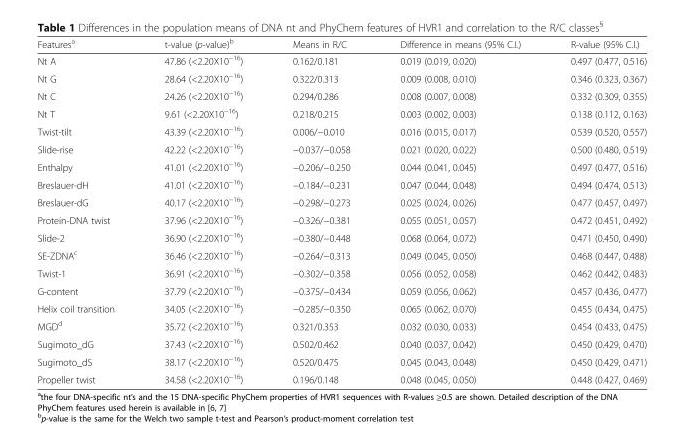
<table><thead><tr><td>Features<sup>a</sup></td><td>t-value (p-value)<sup>b</sup></td><td>Means in R/C</td><td>Difference in means (95% C.I.)</td><td>R-value (95% C.I.)</td></tr></thead><tbody><tr><td>Nt A</td><td>47.86 (&lt;2.20X10<sup>−16</sup>)</td><td>0.162/0.181</td><td>0.019 (0.019, 0.020)</td><td>0.497 (0.477, 0.516)</td></tr><tr><td>Nt G</td><td>28.64 (&lt;2.20X10<sup>−16</sup>)</td><td>0.322/0.313</td><td>0.009 (0.008, 0.010)</td><td>0.346 (0.323, 0.367)</td></tr><tr><td>Nt C</td><td>24.26 (&lt;2.20X10<sup>−16</sup>)</td><td>0.294/0.286</td><td>0.008 (0.007, 0.008)</td><td>0.332 (0.309, 0.355)</td></tr><tr><td>Nt T</td><td>9.61 (&lt;2.20X10<sup>−16</sup>)</td><td>0.218/0.215</td><td>0.003 (0.002, 0.003)</td><td>0.138 (0.112, 0.163)</td></tr><tr><td>Twist-tilt</td><td>43.39 (&lt;2.20X10<sup>−16</sup>)</td><td>0.006/−0.010</td><td>0.016 (0.015, 0.017)</td><td>0.539 (0.520, 0.557)</td></tr><tr><td>Slide-rise</td><td>42.22 (&lt;2.20X10<sup>−16</sup>)</td><td>−0.037/−0.058</td><td>0.021 (0.020, 0.022)</td><td>0.500 (0.480, 0.519)</td></tr><tr><td>Enthalpy</td><td>41.01 (&lt;2.20X10<sup>−16</sup>)</td><td>−0.206/−0.250</td><td>0.044 (0.041, 0.045)</td><td>0.497 (0.477, 0.516)</td></tr><tr><td>Breslauer-dH</td><td>41.01 (&lt;2.20X10<sup>−16</sup>)</td><td>−0.184/−0.231</td><td>0.047 (0.044, 0.048)</td><td>0.494 (0.474, 0.513)</td></tr><tr><td>Breslauer-dG</td><td>40.17 (&lt;2.20X10<sup>−16</sup>)</td><td>−0.298/−0.273</td><td>0.025 (0.024, 0.026)</td><td>0.477 (0.457, 0.497)</td></tr><tr><td>Protein-DNA twist</td><td>37.96 (&lt;2.20X10<sup>−16</sup>)</td><td>−0.326/−0.381</td><td>0.055 (0.051, 0.057)</td><td>0.472 (0.451, 0.492)</td></tr><tr><td>Slide-2</td><td>36.90 (&lt;2.20X10<sup>−16</sup>)</td><td>−0.380/−0.448</td><td>0.068 (0.064, 0.072)</td><td>0.471 (0.450, 0.490)</td></tr><tr><td>SE-ZDNA<sup>c</sup></td><td>36.46 (&lt;2.20X10<sup>−16</sup>)</td><td>−0.264/−0.313</td><td>0.049 (0.045, 0.050)</td><td>0.468 (0.447, 0.488)</td></tr><tr><td>Twist-1</td><td>36.91 (&lt;2.20X10<sup>−16</sup>)</td><td>−0.302/−0.358</td><td>0.056 (0.052, 0.058)</td><td>0.462 (0.442, 0.483)</td></tr><tr><td>G-content</td><td>37.79 (&lt;2.20X10<sup>−16</sup>)</td><td>−0.375/−0.434</td><td>0.059 (0.056, 0.062)</td><td>0.457 (0.436, 0.477)</td></tr><tr><td>Helix coil transition</td><td>34.05 (&lt;2.20X10<sup>−16</sup>)</td><td>−0.285/−0.350</td><td>0.065 (0.062, 0.070)</td><td>0.455 (0.434, 0.475)</td></tr><tr><td>MGD<sup>d</sup></td><td>35.72 (&lt;2.20X10<sup>−16</sup>)</td><td>0.321/0.353</td><td>0.032 (0.030, 0.033)</td><td>0.454 (0.433, 0.475)</td></tr><tr><td>Sugimoto_dG</td><td>37.43 (&lt;2.20X10<sup>−16</sup>)</td><td>0.502/0.462</td><td>0.040 (0.037, 0.042)</td><td>0.450 (0.429, 0.470)</td></tr><tr><td>Sugimoto_dS</td><td>38.17 (&lt;2.20X10<sup>−16</sup>)</td><td>0.520/0.475</td><td>0.045 (0.043, 0.048)</td><td>0.450 (0.429, 0.471)</td></tr><tr><td>Propeller twist</td><td>34.58 (&lt;2.20X10<sup>−16</sup>)</td><td>0.196/0.148</td><td>0.048 (0.045, 0.050)</td><td>0.448 (0.427, 0.469)</td></tr></tbody></table>